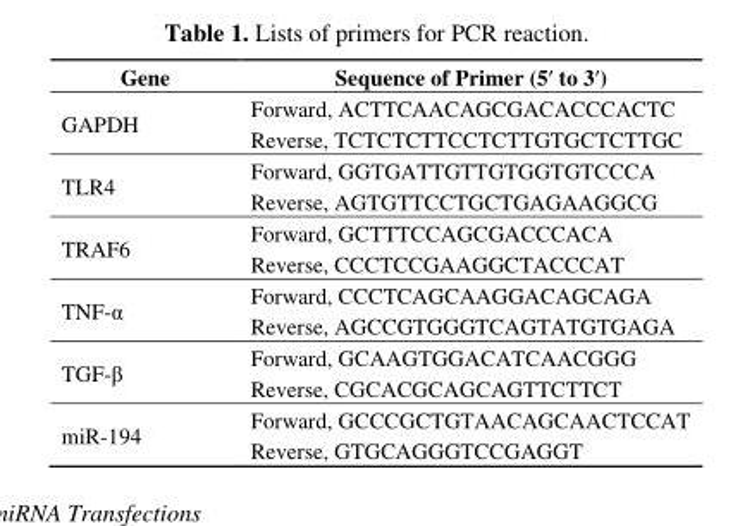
<table><thead><tr><td>Gene</td><td>Sequence of Primer (5′ to 3′)</td></tr></thead><tbody><tr><td rowspan="2">GAPDH</td><td>Forward, ACTTCAACAGCGACACCCACTC</td></tr><tr><td>Reverse, TCTCTCTTCCTCTTGTGCTCTTGC</td></tr><tr><td rowspan="2">TLR4</td><td>Forward, GGTGATTGTTGTGGTGTCCCA</td></tr><tr><td>Reverse, AGTGTTCCTGCTGAGAAGGCG</td></tr><tr><td rowspan="2">TRAF6</td><td>Forward, GCTTTCCAGCGACCCACA</td></tr><tr><td>Reverse, CCCTCCGAAGGCTACCCAT</td></tr><tr><td rowspan="2">TNF-α</td><td>Forward, CCCTCAGCAAGGACAGCAGA</td></tr><tr><td>Reverse, AGCCGTGGGTCAGTATGTGAGA</td></tr><tr><td rowspan="2">TGF-β</td><td>Forward, GCAAGTGGACATCAACGGG</td></tr><tr><td>Reverse, CGCACGCAGCAGTTCTTCT</td></tr><tr><td rowspan="2">miR-194</td><td>Forward, GCCCGCTGTAACAGCAACTCCAT</td></tr><tr><td>Reverse, GTGCAGGGTCCGAGGT</td></tr></tbody></table>